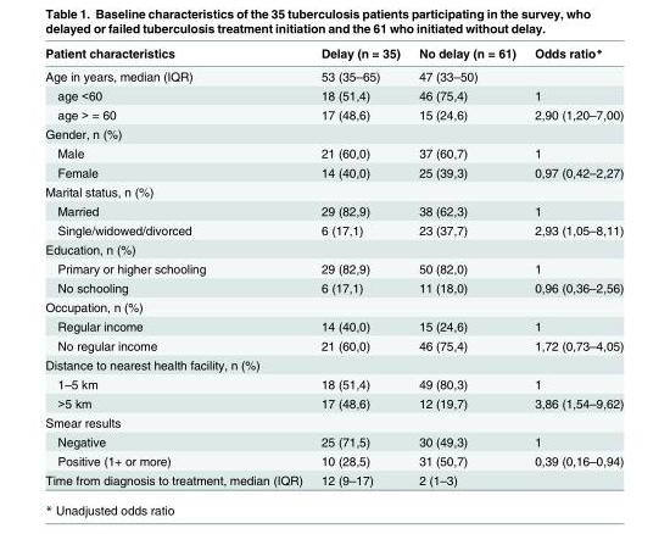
<table><thead><tr><td>Patient characteristics</td><td>Delay (n = 35)</td><td>No delay (n = 61)</td><td>Odds ratio*</td></tr></thead><tbody><tr><td>Age in years, median (IQR)</td><td>53 (35–65)</td><td>47 (33–50)</td><td></td></tr><tr><td>age &lt;60</td><td>18 (51,4)</td><td>46 (75,4)</td><td>1</td></tr><tr><td>age &gt; = 60</td><td>17 (48,6)</td><td>15 (24,6)</td><td>2,90 (1,20–7,00)</td></tr><tr><td colspan="4">Gender, n (%)</td></tr><tr><td>Male</td><td>21 (60,0)</td><td>37 (60,7)</td><td>1</td></tr><tr><td>Female</td><td>14 (40,0)</td><td>25 (39,3)</td><td>0,97 (0,42–2,27)</td></tr><tr><td colspan="4">Marital status, n (%)</td></tr><tr><td>Married</td><td>29 (82,9)</td><td>38 (62,3)</td><td>1</td></tr><tr><td>Single/widowed/divorced</td><td>6 (17,1)</td><td>23 (37,7)</td><td>2,93 (1,05–8,11)</td></tr><tr><td colspan="4">Education, n (%)</td></tr><tr><td>Primary or higher schooling</td><td>29 (82,9)</td><td>50 (82,0)</td><td>1</td></tr><tr><td>No schooling</td><td>6 (17,1)</td><td>11 (18,0)</td><td>0,96 (0,36–2,56)</td></tr><tr><td colspan="4">Occupation, n (%)</td></tr><tr><td>Regular income</td><td>14 (40,0)</td><td>15 (24,6)</td><td>1</td></tr><tr><td>No regular income</td><td>21 (60,0)</td><td>46 (75,4)</td><td>1,72 (0,73–4,05)</td></tr><tr><td colspan="4">Distance to nearest health facility, n (%)</td></tr><tr><td>1–5 km</td><td>18 (51,4)</td><td>49 (80,3)</td><td>1</td></tr><tr><td>&gt;5 km</td><td>17 (48,6)</td><td>12 (19,7)</td><td>3,86 (1,54–9,62)</td></tr><tr><td colspan="4">Smear results</td></tr><tr><td>Negative</td><td>25 (71,5)</td><td>30 (49,3)</td><td>1</td></tr><tr><td>Positive (1+ or more)</td><td>10 (28,5)</td><td>31 (50,7)</td><td>0,39 (0,16–0,94)</td></tr><tr><td>Time from diagnosis to treatment, median (IQR)</td><td>12 (9–17)</td><td>2 (1–3)</td><td></td></tr></tbody></table>